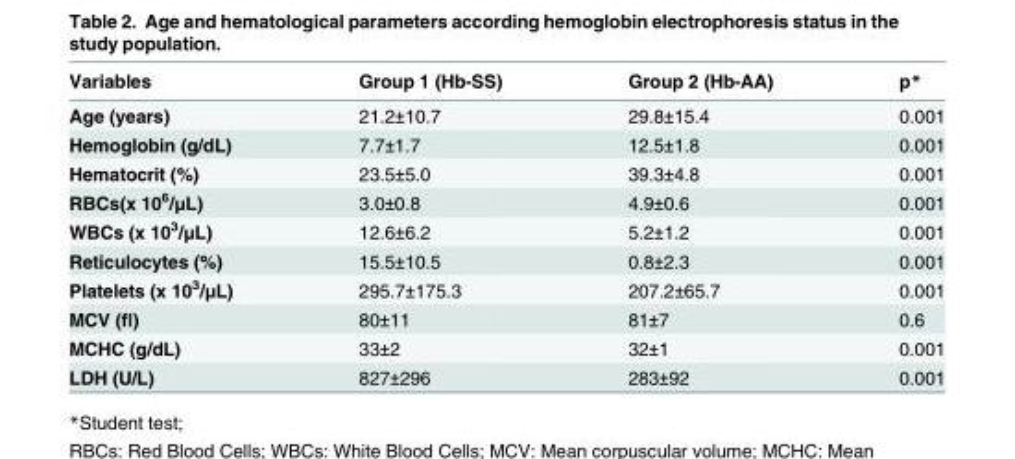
<table><thead><tr><td>Variables</td><td>Group 1 (Hb-SS)</td><td>Group 2 (Hb-AA)</td><td>p*</td></tr></thead><tbody><tr><td>Age (years)</td><td>21.2±10.7</td><td>29.8±15.4</td><td>0.001</td></tr><tr><td>Hemoglobin (g/dL)</td><td>7.7±1.7</td><td>12.5±1.8</td><td>0.001</td></tr><tr><td>Hematocrit (%)</td><td>23.5±5.0</td><td>39.3±4.8</td><td>0.001</td></tr><tr><td>RBCs(x 10<sup>6</sup>/μL)</td><td>3.0±0.8</td><td>4.9±0.6</td><td>0.001</td></tr><tr><td>WBCs (x 10<sup>3</sup>/μL)</td><td>12.6±6.2</td><td>5.2±1.2</td><td>0.001</td></tr><tr><td>Reticulocytes (%)</td><td>15.5±10.5</td><td>0.8±2.3</td><td>0.001</td></tr><tr><td>Platelets (x 10<sup>3</sup>/μL)</td><td>295.7±175.3</td><td>207.2±65.7</td><td>0.001</td></tr><tr><td>MCV (fl)</td><td>80±11</td><td>81±7</td><td>0.6</td></tr><tr><td>MCHC (g/dL)</td><td>33±2</td><td>32±1</td><td>0.001</td></tr><tr><td>LDH (U/L)</td><td>827±296</td><td>283±92</td><td>0.001</td></tr></tbody></table>